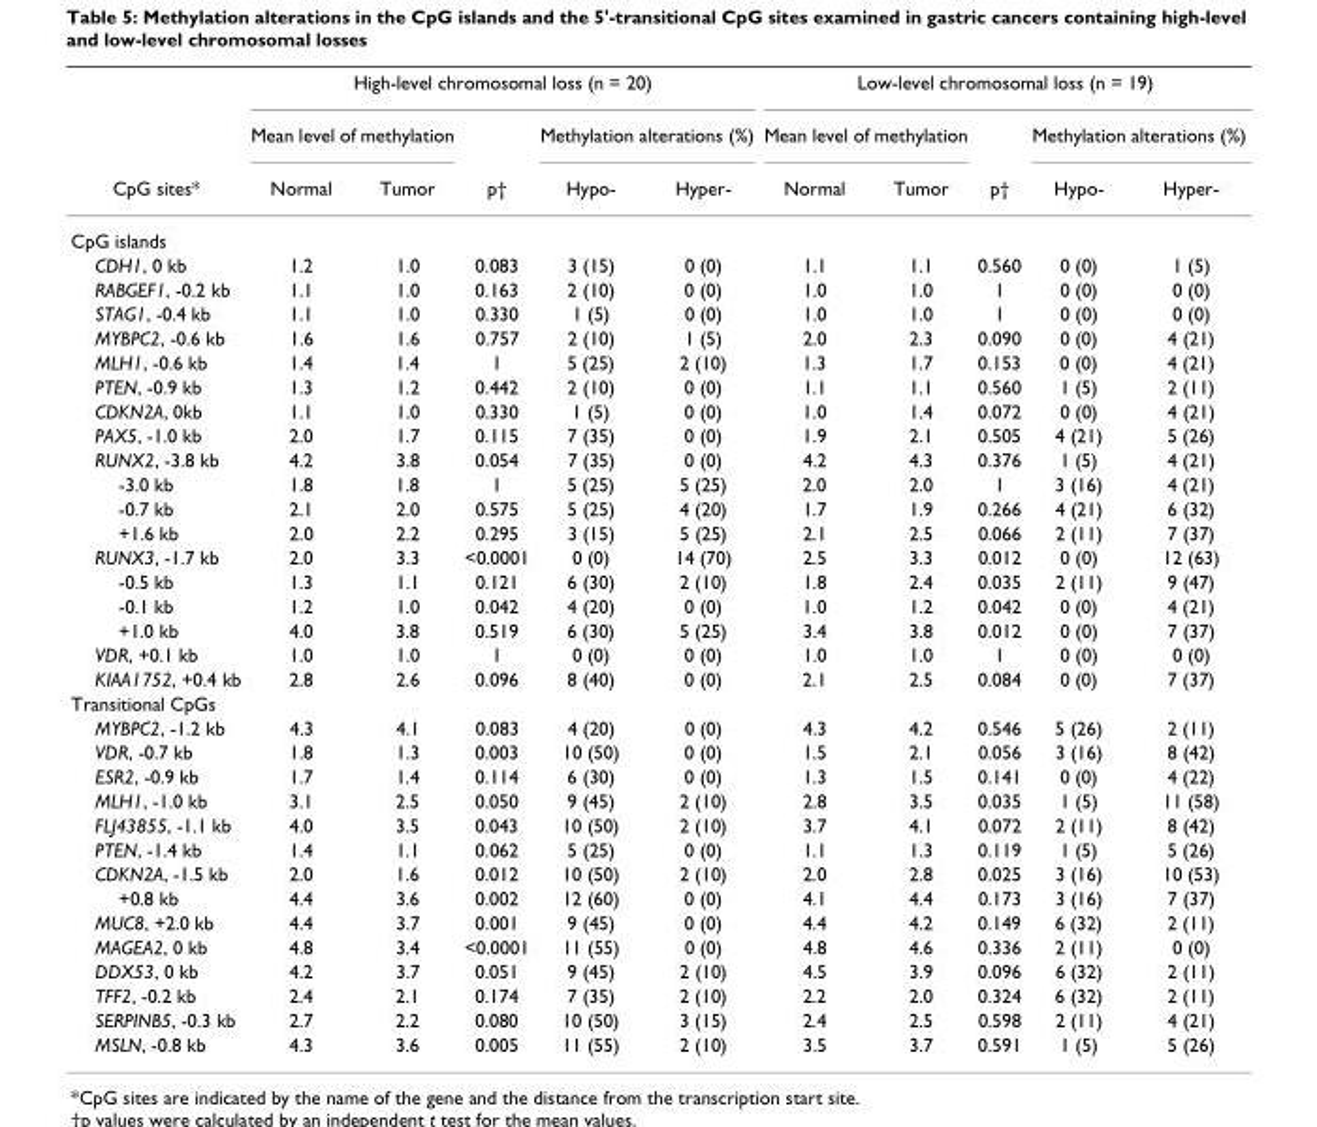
<table><thead><tr><td rowspan="3">CpG sites*</td><td colspan="5">High-level chromosomal loss (n = 20)</td><td colspan="5">Low-level chromosomal loss (n = 19)</td></tr><tr><td colspan="2">Mean level of methylation</td><td rowspan="2">p†</td><td colspan="2">Methylation alterations (%)</td><td colspan="2">Mean level of methylation</td><td rowspan="2">p†</td><td colspan="2">Methylation alterations (%)</td></tr><tr><td>Normal</td><td>Tumor</td><td>Hypo-</td><td>Hyper-</td><td>Normal</td><td>Tumor</td><td>Hypo-</td><td>Hyper-</td></tr></thead><tbody><tr><td colspan="11">CpG islands</td></tr><tr><td>CDH1, 0 kb</td><td>1.2</td><td>1.0</td><td>0.083</td><td>3 (15)</td><td>0 (0)</td><td>1.1</td><td>1.1</td><td>0.560</td><td>0 (0)</td><td>1 (5)</td></tr><tr><td>RABGEF1, -0.2 kb</td><td>1.1</td><td>1.0</td><td>0.163</td><td>2 (10)</td><td>0 (0)</td><td>1.0</td><td>1.0</td><td>1</td><td>0 (0)</td><td>0 (0)</td></tr><tr><td>STAG1, -0.4 kb</td><td>1.1</td><td>1.0</td><td>0.330</td><td>1 (5)</td><td>0 (0)</td><td>1.0</td><td>1.0</td><td>1</td><td>0 (0)</td><td>0 (0)</td></tr><tr><td>MYBPC2, -0.6 kb</td><td>1.6</td><td>1.6</td><td>0.757</td><td>2 (10)</td><td>1 (5)</td><td>2.0</td><td>2.3</td><td>0.090</td><td>0 (0)</td><td>4 (21)</td></tr><tr><td>MLH1, -0.6 kb</td><td>1.4</td><td>1.4</td><td>1</td><td>5 (25)</td><td>2 (10)</td><td>1.3</td><td>1.7</td><td>0.153</td><td>0 (0)</td><td>4 (21)</td></tr><tr><td>PTEN, -0.9 kb</td><td>1.3</td><td>1.2</td><td>0.442</td><td>2 (10)</td><td>0 (0)</td><td>1.1</td><td>1.1</td><td>0.560</td><td>1 (5)</td><td>2 (11)</td></tr><tr><td>CDKN2A, 0kb</td><td>1.1</td><td>1.0</td><td>0.330</td><td>1 (5)</td><td>0 (0)</td><td>1.0</td><td>1.4</td><td>0.072</td><td>0 (0)</td><td>4 (21)</td></tr><tr><td>PAX5, -1.0 kb</td><td>2.0</td><td>1.7</td><td>0.115</td><td>7 (35)</td><td>0 (0)</td><td>1.9</td><td>2.1</td><td>0.505</td><td>4 (21)</td><td>5 (26)</td></tr><tr><td>RUNX2, -3.8 kb</td><td>4.2</td><td>3.8</td><td>0.054</td><td>7 (35)</td><td>0 (0)</td><td>4.2</td><td>4.3</td><td>0.376</td><td>1 (5)</td><td>4 (21)</td></tr><tr><td>-3.0 kb</td><td>1.8</td><td>1.8</td><td>1</td><td>5 (25)</td><td>5 (25)</td><td>2.0</td><td>2.0</td><td>1</td><td>3 (16)</td><td>4 (21)</td></tr><tr><td>-0.7 kb</td><td>2.1</td><td>2.0</td><td>0.575</td><td>5 (25)</td><td>4 (20)</td><td>1.7</td><td>1.9</td><td>0.266</td><td>4 (21)</td><td>6 (32)</td></tr><tr><td>+1.6 kb</td><td>2.0</td><td>2.2</td><td>0.295</td><td>3 (15)</td><td>5 (25)</td><td>2.1</td><td>2.5</td><td>0.066</td><td>2 (11)</td><td>7 (37)</td></tr><tr><td>RUNX3, -1.7 kb</td><td>2.0</td><td>3.3</td><td>&lt;0.0001</td><td>0 (0)</td><td>14 (70)</td><td>2.5</td><td>3.3</td><td>0.012</td><td>0 (0)</td><td>12 (63)</td></tr><tr><td>-0.5 kb</td><td>1.3</td><td>1.1</td><td>0.121</td><td>6 (30)</td><td>2 (10)</td><td>1.8</td><td>2.4</td><td>0.035</td><td>2 (11)</td><td>9 (47)</td></tr><tr><td>-0.1 kb</td><td>1.2</td><td>1.0</td><td>0.042</td><td>4 (20)</td><td>0 (0)</td><td>1.0</td><td>1.2</td><td>0.042</td><td>0 (0)</td><td>4 (21)</td></tr><tr><td>+1.0 kb</td><td>4.0</td><td>3.8</td><td>0.519</td><td>6 (30)</td><td>5 (25)</td><td>3.4</td><td>3.8</td><td>0.012</td><td>0 (0)</td><td>7 (37)</td></tr><tr><td>VDR, +0.1 kb</td><td>1.0</td><td>1.0</td><td>1</td><td>0 (0)</td><td>0 (0)</td><td>1.0</td><td>1.0</td><td>1</td><td>0 (0)</td><td>0 (0)</td></tr><tr><td>KIAA1752, +0.4 kb</td><td>2.8</td><td>2.6</td><td>0.096</td><td>8 (40)</td><td>0 (0)</td><td>2.1</td><td>2.5</td><td>0.084</td><td>0 (0)</td><td>7 (37)</td></tr><tr><td colspan="11">Transitional CpGs</td></tr><tr><td>MYBPC2, -1.2 kb</td><td>4.3</td><td>4.1</td><td>0.083</td><td>4 (20)</td><td>0 (0)</td><td>4.3</td><td>4.2</td><td>0.546</td><td>5 (26)</td><td>2 (11)</td></tr><tr><td>VDR, -0.7 kb</td><td>1.8</td><td>1.3</td><td>0.003</td><td>10 (50)</td><td>0 (0)</td><td>1.5</td><td>2.1</td><td>0.056</td><td>3 (16)</td><td>8 (42)</td></tr><tr><td>ESR2, -0.9 kb</td><td>1.7</td><td>1.4</td><td>0.114</td><td>6 (30)</td><td>0 (0)</td><td>1.3</td><td>1.5</td><td>0.141</td><td>0 (0)</td><td>4 (22)</td></tr><tr><td>MLH1, -1.0 kb</td><td>3.1</td><td>2.5</td><td>0.050</td><td>9 (45)</td><td>2 (10)</td><td>2.8</td><td>3.5</td><td>0.035</td><td>1 (5)</td><td>11 (58)</td></tr><tr><td>FLJ43855, -1.1 kb</td><td>4.0</td><td>3.5</td><td>0.043</td><td>10 (50)</td><td>2 (10)</td><td>3.7</td><td>4.1</td><td>0.072</td><td>2 (11)</td><td>8 (42)</td></tr><tr><td>PTEN, -1.4 kb</td><td>1.4</td><td>1.1</td><td>0.062</td><td>5 (25)</td><td>0 (0)</td><td>1.1</td><td>1.3</td><td>0.119</td><td>1 (5)</td><td>5 (26)</td></tr><tr><td>CDKN2A, -1.5 kb</td><td>2.0</td><td>1.6</td><td>0.012</td><td>10 (50)</td><td>2 (10)</td><td>2.0</td><td>2.8</td><td>0.025</td><td>3 (16)</td><td>10 (53)</td></tr><tr><td>+0.8 kb</td><td>4.4</td><td>3.6</td><td>0.002</td><td>12 (60)</td><td>0 (0)</td><td>4.1</td><td>4.4</td><td>0.173</td><td>3 (16)</td><td>7 (37)</td></tr><tr><td>MUC8, +2.0 kb</td><td>4.4</td><td>3.7</td><td>0.001</td><td>9 (45)</td><td>0 (0)</td><td>4.4</td><td>4.2</td><td>0.149</td><td>6 (32)</td><td>2 (11)</td></tr><tr><td>MAGEA2, 0 kb</td><td>4.8</td><td>3.4</td><td>&lt;0.0001</td><td>11 (55)</td><td>0 (0)</td><td>4.8</td><td>4.6</td><td>0.336</td><td>2 (11)</td><td>0 (0)</td></tr><tr><td>DDX53, 0 kb</td><td>4.2</td><td>3.7</td><td>0.051</td><td>9 (45)</td><td>2 (10)</td><td>4.5</td><td>3.9</td><td>0.096</td><td>6 (32)</td><td>2 (11)</td></tr><tr><td>TFF2, -0.2 kb</td><td>2.4</td><td>2.1</td><td>0.174</td><td>7 (35)</td><td>2 (10)</td><td>2.2</td><td>2.0</td><td>0.324</td><td>6 (32)</td><td>2 (11)</td></tr><tr><td>SERPINB5, -0.3 kb</td><td>2.7</td><td>2.2</td><td>0.080</td><td>10 (50)</td><td>3 (15)</td><td>2.4</td><td>2.5</td><td>0.598</td><td>2 (11)</td><td>4 (21)</td></tr><tr><td>MSLN, -0.8 kb</td><td>4.3</td><td>3.6</td><td>0.005</td><td>11 (55)</td><td>2 (10)</td><td>3.5</td><td>3.7</td><td>0.591</td><td>1 (5)</td><td>5 (26)</td></tr></tbody></table>